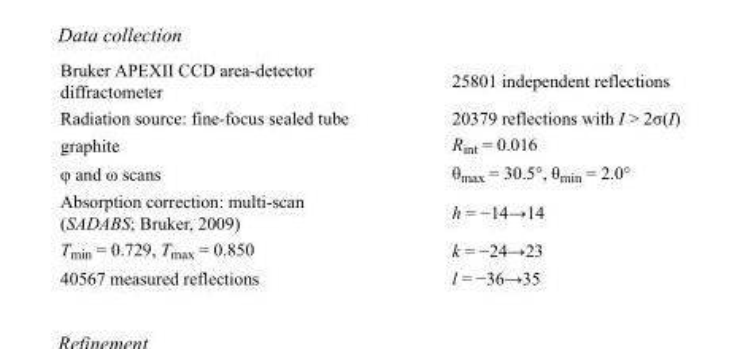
<table><tbody><tr><td>Bruker APEXII CCD area-detector diffractometer</td><td>25801 independent reflections</td></tr><tr><td>Radiation source: fine-focus sealed tube</td><td>20379 reflections with I &gt; 2σ(I)</td></tr><tr><td>graphite</td><td>R<sub>int</sub> = 0.016</td></tr><tr><td>φ and ω scans</td><td>θ<sub>max</sub> = 30.5°, θ<sub>min</sub> = 2.0°</td></tr><tr><td>Absorption correction: multi-scan (SADABS; Bruker, 2009)</td><td>h = −14→14</td></tr><tr><td>T<sub>min</sub> = 0.729, T<sub>max</sub> = 0.850</td><td>k = −24→23</td></tr><tr><td>40567 measured reflections</td><td>l = −36→35</td></tr></tbody></table>